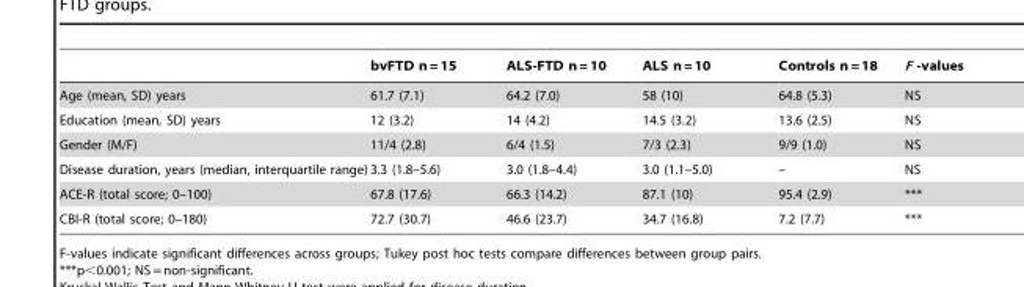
<table><thead><tr><td></td><td>bvFTD n = 15</td><td>ALS-FTD n = 10</td><td>ALS n = 10</td><td>Controls n = 18</td><td>F -values</td></tr></thead><tbody><tr><td>Age (mean, SD) years</td><td>61.7 (7.1)</td><td>64.2 (7.0)</td><td>58 (10)</td><td>64.8 (5.3)</td><td>NS</td></tr><tr><td>Education (mean, SD) years</td><td>12 (3.2)</td><td>14 (4.2)</td><td>14.5 (3.2)</td><td>13.6 (2.5)</td><td>NS</td></tr><tr><td>Gender (M/F)</td><td>11/4 (2.8)</td><td>6/4 (1.5)</td><td>7/3 (2.3)</td><td>9/9 (1.0)</td><td>NS</td></tr><tr><td>Disease duration, years (median, interquartile range)</td><td>3.3 (1.8–5.6)</td><td>3.0 (1.8–4.4)</td><td>3.0 (1.1–5.0)</td><td>–</td><td>NS</td></tr><tr><td>ACE-R (total score; 0–100)</td><td>67.8 (17.6)</td><td>66.3 (14.2)</td><td>87.1 (10)</td><td>95.4 (2.9)</td><td>***</td></tr><tr><td>CBI-R (total score; 0–180)</td><td>72.7 (30.7)</td><td>46.6 (23.7)</td><td>34.7 (16.8)</td><td>7.2 (7.7)</td><td>***</td></tr></tbody></table>